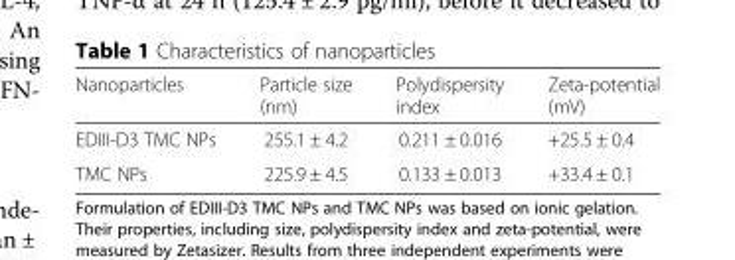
<table><thead><tr><td>Nanoparticles</td><td>Particle size (nm)</td><td>Polydispersity index</td><td>Zeta-potential (mV)</td></tr></thead><tbody><tr><td>EDIII-D3 TMC NPs</td><td>255.1 ± 4.2</td><td>0.211 ± 0.016</td><td>+25.5 ± 0.4</td></tr><tr><td>TMC NPs</td><td>225.9 ± 4.5</td><td>0.133 ± 0.013</td><td>+33.4 ± 0.1</td></tr></tbody></table>